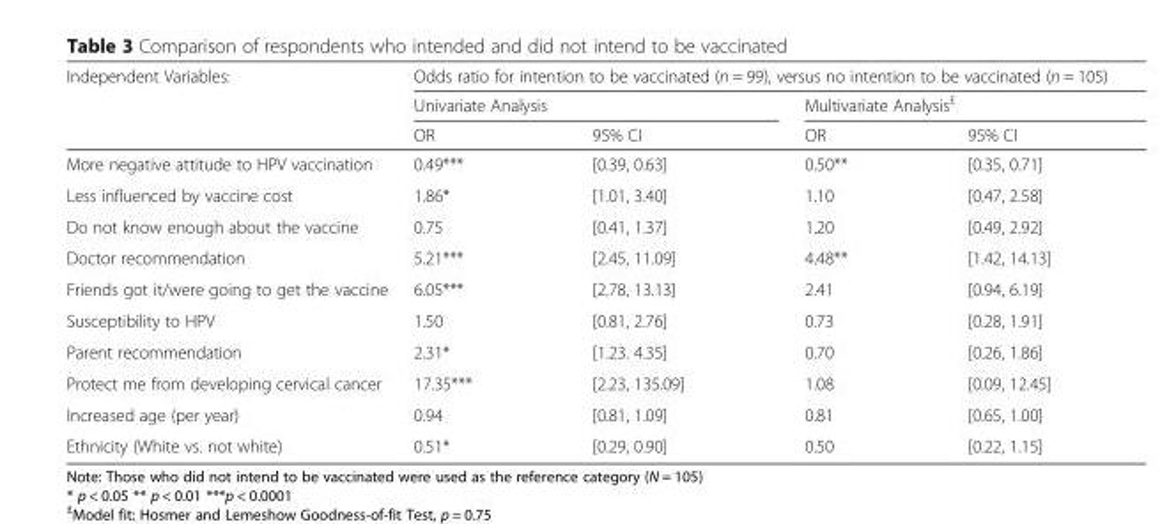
<table><thead><tr><td rowspan="3">Independent Variables:</td><td colspan="4">Odds ratio for intention to be vaccinated (n = 99), versus no intention to be vaccinated (n = 105)</td></tr><tr><td colspan="2">Univariate Analysis</td><td colspan="2">Multivariate Analysis<sup>£</sup></td></tr><tr><td>OR</td><td>95% CI</td><td>OR</td><td>95% CI</td></tr></thead><tbody><tr><td>More negative attitude to HPV vaccination</td><td>0.49***</td><td>[0.39, 0.63]</td><td>0.50**</td><td>[0.35, 0.71]</td></tr><tr><td>Less influenced by vaccine cost</td><td>1.86*</td><td>[1.01, 3.40]</td><td>1.10</td><td>[0.47, 2.58]</td></tr><tr><td>Do not know enough about the vaccine</td><td>0.75</td><td>[0.41, 1.37]</td><td>1.20</td><td>[0.49, 2.92]</td></tr><tr><td>Doctor recommendation</td><td>5.21***</td><td>[2.45, 11.09]</td><td>4.48**</td><td>[1.42, 14.13]</td></tr><tr><td>Friends got it/were going to get the vaccine</td><td>6.05***</td><td>[2.78, 13.13]</td><td>2.41</td><td>[0.94, 6.19]</td></tr><tr><td>Susceptibility to HPV</td><td>1.50</td><td>[0.81, 2.76]</td><td>0.73</td><td>[0.28, 1.91]</td></tr><tr><td>Parent recommendation</td><td>2.31*</td><td>[1.23. 4.35]</td><td>0.70</td><td>[0.26, 1.86]</td></tr><tr><td>Protect me from developing cervical cancer</td><td>17.35***</td><td>[2.23, 135.09]</td><td>1.08</td><td>[0.09, 12.45]</td></tr><tr><td>Increased age (per year)</td><td>0.94</td><td>[0.81, 1.09]</td><td>0.81</td><td>[0.65, 1.00]</td></tr><tr><td>Ethnicity (White vs. not white)</td><td>0.51*</td><td>[0.29, 0.90]</td><td>0.50</td><td>[0.22, 1.15]</td></tr></tbody></table>